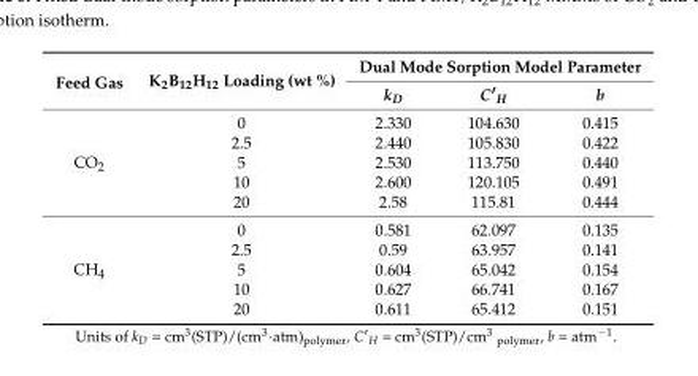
<table><thead><tr><td rowspan="2">Feed Gas</td><td rowspan="2">K<sub>2</sub>B<sub>12</sub>H<sub>12</sub> Loading (wt %)</td><td colspan="3">Dual Mode Sorption Model Parameter</td></tr><tr><td>k<sub>D</sub></td><td>C′<sub>H</sub></td><td>b</td></tr></thead><tbody><tr><td rowspan="5">CO<sub>2</sub></td><td>0</td><td>2.330</td><td>104.630</td><td>0.415</td></tr><tr><td>2.5</td><td>2.440</td><td>105.830</td><td>0.422</td></tr><tr><td>5</td><td>2.530</td><td>113.750</td><td>0.440</td></tr><tr><td>10</td><td>2.600</td><td>120.105</td><td>0.491</td></tr><tr><td>20</td><td>2.58</td><td>115.81</td><td>0.444</td></tr><tr><td rowspan="5">CH<sub>4</sub></td><td>0</td><td>0.581</td><td>62.097</td><td>0.135</td></tr><tr><td>2.5</td><td>0.59</td><td>63.957</td><td>0.141</td></tr><tr><td>5</td><td>0.604</td><td>65.042</td><td>0.154</td></tr><tr><td>10</td><td>0.627</td><td>66.741</td><td>0.167</td></tr><tr><td>20</td><td>0.611</td><td>65.412</td><td>0.151</td></tr></tbody></table>